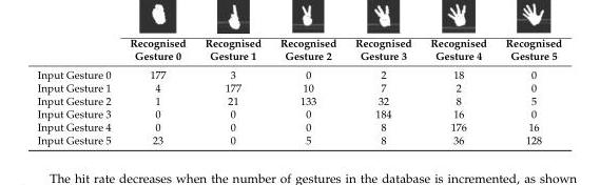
<table><thead><tr><td></td><td>Recognised Gesture 0</td><td>Recognised Gesture 1</td><td>Recognised Gesture 2</td><td>Recognised Gesture 3</td><td>Recognised Gesture 4</td><td>Recognised Gesture 5</td></tr></thead><tbody><tr><td>Input Gesture 0</td><td>177</td><td>3</td><td>0</td><td>2</td><td>18</td><td>0</td></tr><tr><td>Input Gesture 1</td><td>4</td><td>177</td><td>10</td><td>7</td><td>2</td><td>0</td></tr><tr><td>Input Gesture 2</td><td>1</td><td>21</td><td>133</td><td>32</td><td>8</td><td>5</td></tr><tr><td>Input Gesture 3</td><td>0</td><td>0</td><td>0</td><td>184</td><td>16</td><td>0</td></tr><tr><td>Input Gesture 4</td><td>0</td><td>0</td><td>0</td><td>8</td><td>176</td><td>16</td></tr><tr><td>Input Gesture 5</td><td>23</td><td>0</td><td>5</td><td>8</td><td>36</td><td>128</td></tr></tbody></table>